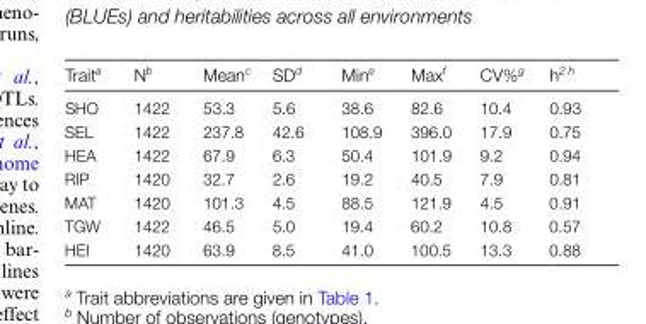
<table><thead><tr><td>Trait<sup>a</sup></td><td>N<sup>b</sup></td><td>Mean<sup>c</sup></td><td>SD<sup>d</sup></td><td>Min<sup>e</sup></td><td>Max<sup>f</sup></td><td>CV%<sup>g</sup></td><td>h<sup>2 h</sup></td></tr></thead><tbody><tr><td>SHO</td><td>1422</td><td>53.3</td><td>5.6</td><td>38.6</td><td>82.6</td><td>10.4</td><td>0.93</td></tr><tr><td>SEL</td><td>1422</td><td>237.8</td><td>42.6</td><td>108.9</td><td>396.0</td><td>17.9</td><td>0.75</td></tr><tr><td>HEA</td><td>1422</td><td>67.9</td><td>6.3</td><td>50.4</td><td>101.9</td><td>9.2</td><td>0.94</td></tr><tr><td>RIP</td><td>1420</td><td>32.7</td><td>2.6</td><td>19.2</td><td>40.5</td><td>7.9</td><td>0.81</td></tr><tr><td>MAT</td><td>1420</td><td>101.3</td><td>4.5</td><td>88.5</td><td>121.9</td><td>4.5</td><td>0.91</td></tr><tr><td>TGW</td><td>1422</td><td>46.5</td><td>5.0</td><td>19.4</td><td>60.2</td><td>10.8</td><td>0.57</td></tr><tr><td>HEI</td><td>1420</td><td>63.9</td><td>8.5</td><td>41.0</td><td>100.5</td><td>13.3</td><td>0.88</td></tr></tbody></table>